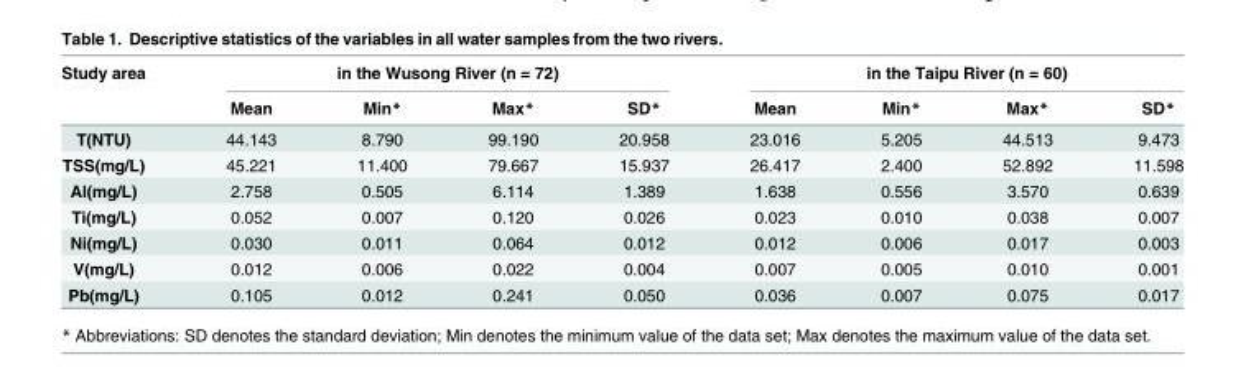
<table><thead><tr><td rowspan="2">Study area</td><td colspan="4">in the Wusong River (n = 72)</td><td colspan="4">in the Taipu River (n = 60)</td></tr><tr><td>Mean</td><td>Min*</td><td>Max*</td><td>SD*</td><td>Mean</td><td>Min*</td><td>Max*</td><td>SD*</td></tr></thead><tbody><tr><td>T(NTU)</td><td>44.143</td><td>8.790</td><td>99.190</td><td>20.958</td><td>23.016</td><td>5.205</td><td>44.513</td><td>9.473</td></tr><tr><td>TSS(mg/L)</td><td>45.221</td><td>11.400</td><td>79.667</td><td>15.937</td><td>26.417</td><td>2.400</td><td>52.892</td><td>11.598</td></tr><tr><td>Al(mg/L)</td><td>2.758</td><td>0.505</td><td>6.114</td><td>1.389</td><td>1.638</td><td>0.556</td><td>3.570</td><td>0.639</td></tr><tr><td>Ti(mg/L)</td><td>0.052</td><td>0.007</td><td>0.120</td><td>0.026</td><td>0.023</td><td>0.010</td><td>0.038</td><td>0.007</td></tr><tr><td>Ni(mg/L)</td><td>0.030</td><td>0.011</td><td>0.064</td><td>0.012</td><td>0.012</td><td>0.006</td><td>0.017</td><td>0.003</td></tr><tr><td>V(mg/L)</td><td>0.012</td><td>0.006</td><td>0.022</td><td>0.004</td><td>0.007</td><td>0.005</td><td>0.010</td><td>0.001</td></tr><tr><td>Pb(mg/L)</td><td>0.105</td><td>0.012</td><td>0.241</td><td>0.050</td><td>0.036</td><td>0.007</td><td>0.075</td><td>0.017</td></tr></tbody></table>